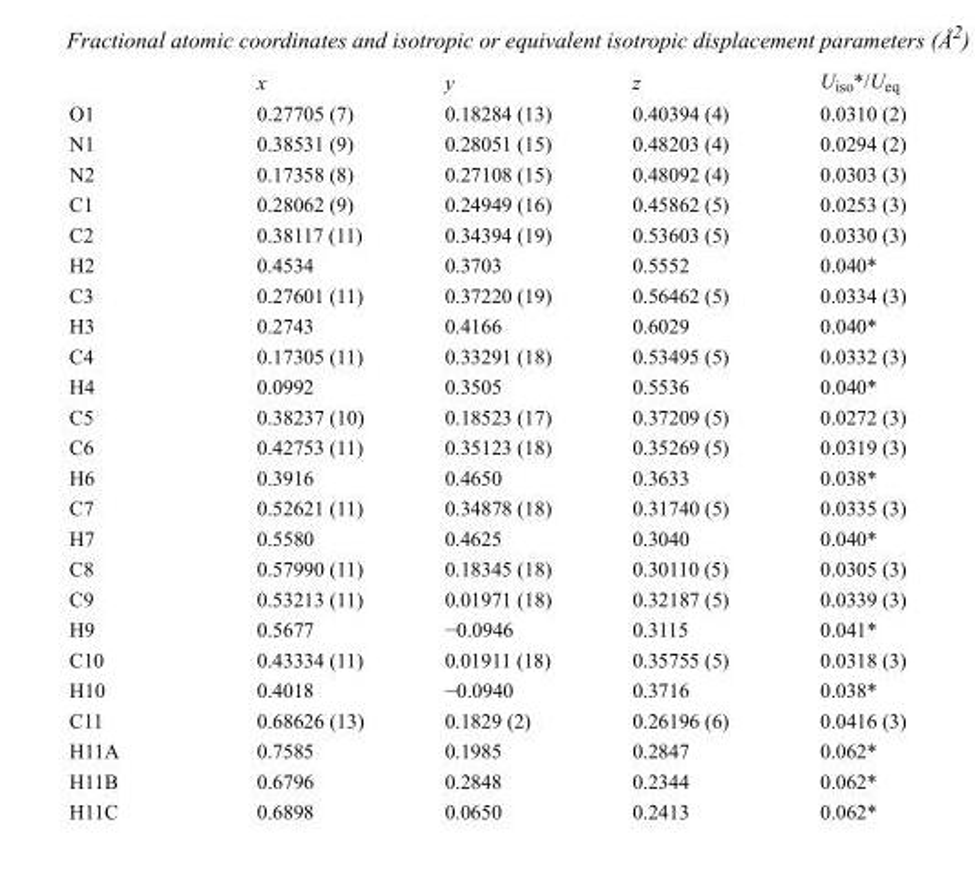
<table><thead><tr><td></td><td>x</td><td>y</td><td>z</td><td>U<sub>iso</sub>*/U<sub>eq</sub></td></tr></thead><tbody><tr><td>O1</td><td>0.27705 (7)</td><td>0.18284 (13)</td><td>0.40394 (4)</td><td>0.0310 (2)</td></tr><tr><td>N1</td><td>0.38531 (9)</td><td>0.28051 (15)</td><td>0.48203 (4)</td><td>0.0294 (2)</td></tr><tr><td>N2</td><td>0.17358 (8)</td><td>0.27108 (15)</td><td>0.48092 (4)</td><td>0.0303 (3)</td></tr><tr><td>C1</td><td>0.28062 (9)</td><td>0.24949 (16)</td><td>0.45862 (5)</td><td>0.0253 (3)</td></tr><tr><td>C2</td><td>0.38117 (11)</td><td>0.34394 (19)</td><td>0.53603 (5)</td><td>0.0330 (3)</td></tr><tr><td>H2</td><td>0.4534</td><td>0.3703</td><td>0.5552</td><td>0.040*</td></tr><tr><td>C3</td><td>0.27601 (11)</td><td>0.37220 (19)</td><td>0.56462 (5)</td><td>0.0334 (3)</td></tr><tr><td>H3</td><td>0.2743</td><td>0.4166</td><td>0.6029</td><td>0.040*</td></tr><tr><td>C4</td><td>0.17305 (11)</td><td>0.33291 (18)</td><td>0.53495 (5)</td><td>0.0332 (3)</td></tr><tr><td>H4</td><td>0.0992</td><td>0.3505</td><td>0.5536</td><td>0.040*</td></tr><tr><td>C5</td><td>0.38237 (10)</td><td>0.18523 (17)</td><td>0.37209 (5)</td><td>0.0272 (3)</td></tr><tr><td>C6</td><td>0.42753 (11)</td><td>0.35123 (18)</td><td>0.35269 (5)</td><td>0.0319 (3)</td></tr><tr><td>H6</td><td>0.3916</td><td>0.4650</td><td>0.3633</td><td>0.038*</td></tr><tr><td>C7</td><td>0.52621 (11)</td><td>0.34878 (18)</td><td>0.31740 (5)</td><td>0.0335 (3)</td></tr><tr><td>H7</td><td>0.5580</td><td>0.4625</td><td>0.3040</td><td>0.040*</td></tr><tr><td>C8</td><td>0.57990 (11)</td><td>0.18345 (18)</td><td>0.30110 (5)</td><td>0.0305 (3)</td></tr><tr><td>C9</td><td>0.53213 (11)</td><td>0.01971 (18)</td><td>0.32187 (5)</td><td>0.0339 (3)</td></tr><tr><td>H9</td><td>0.5677</td><td>−0.0946</td><td>0.3115</td><td>0.041*</td></tr><tr><td>C10</td><td>0.43334 (11)</td><td>0.01911 (18)</td><td>0.35755 (5)</td><td>0.0318 (3)</td></tr><tr><td>H10</td><td>0.4018</td><td>−0.0940</td><td>0.3716</td><td>0.038*</td></tr><tr><td>C11</td><td>0.68626 (13)</td><td>0.1829 (2)</td><td>0.26196 (6)</td><td>0.0416 (3)</td></tr><tr><td>H11A</td><td>0.7585</td><td>0.1985</td><td>0.2847</td><td>0.062*</td></tr><tr><td>H11B</td><td>0.6796</td><td>0.2848</td><td>0.2344</td><td>0.062*</td></tr><tr><td>H11C</td><td>0.6898</td><td>0.0650</td><td>0.2413</td><td>0.062*</td></tr></tbody></table>